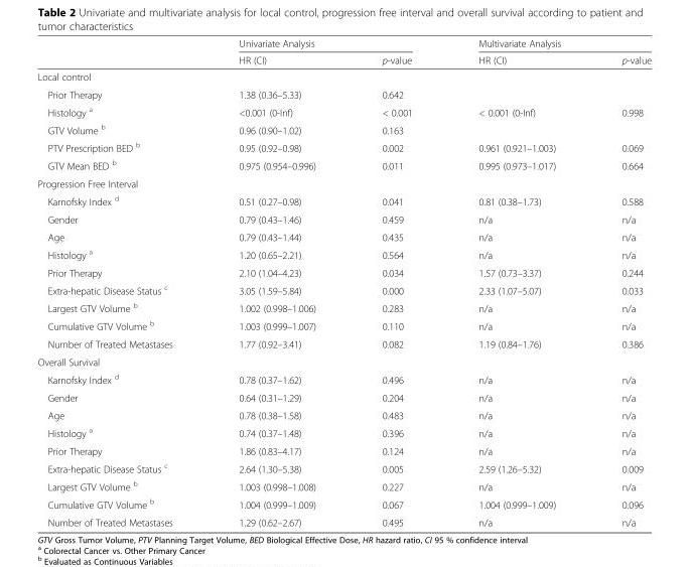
<table><thead><tr><td rowspan="2"></td><td colspan="2">Univariate Analysis</td><td colspan="2">Multivariate Analysis</td></tr><tr><td>HR (CI)</td><td>p-value</td><td>HR (CI)</td><td>p-value</td></tr></thead><tbody><tr><td colspan="5">Local control</td></tr><tr><td>Prior Therapy</td><td>1.38 (0.36–5.33)</td><td>0.642</td><td></td><td></td></tr><tr><td>Histology <sup>a</sup></td><td>&lt;0.001 (0-Inf)</td><td>&lt; 0.001</td><td>&lt; 0.001 (0-Inf)</td><td>0.998</td></tr><tr><td>GTV Volume <sup>b</sup></td><td>0.96 (0.90–1.02)</td><td>0.163</td><td></td><td></td></tr><tr><td>PTV Prescription BED <sup>b</sup></td><td>0.95 (0.92–0.98)</td><td>0.002</td><td>0.961 (0.921–1.003)</td><td>0.069</td></tr><tr><td>GTV Mean BED <sup>b</sup></td><td>0.975 (0.954–0.996)</td><td>0.011</td><td>0.995 (0.973–1.017)</td><td>0.664</td></tr><tr><td colspan="5">Progression Free Interval</td></tr><tr><td>Karnofsky Index <sup>d</sup></td><td>0.51 (0.27–0.98)</td><td>0.041</td><td>0.81 (0.38–1.73)</td><td>0.588</td></tr><tr><td>Gender</td><td>0.79 (0.43–1.46)</td><td>0.459</td><td>n/a</td><td>n/a</td></tr><tr><td>Age</td><td>0.79 (0.43–1.44)</td><td>0.435</td><td>n/a</td><td>n/a</td></tr><tr><td>Histology <sup>a</sup></td><td>1.20 (0.65–2.21)</td><td>0.564</td><td>n/a</td><td>n/a</td></tr><tr><td>Prior Therapy</td><td>2.10 (1.04–4.23)</td><td>0.034</td><td>1.57 (0.73–3.37)</td><td>0.244</td></tr><tr><td>Extra-hepatic Disease Status <sup>c</sup></td><td>3.05 (1.59–5.84)</td><td>0.000</td><td>2.33 (1.07–5.07)</td><td>0.033</td></tr><tr><td>Largest GTV Volume <sup>b</sup></td><td>1.002 (0.998–1.006)</td><td>0.283</td><td>n/a</td><td>n/a</td></tr><tr><td>Cumulative GTV Volume <sup>b</sup></td><td>1.003 (0.999–1.007)</td><td>0.110</td><td>n/a</td><td>n/a</td></tr><tr><td>Number of Treated Metastases</td><td>1.77 (0.92–3.41)</td><td>0.082</td><td>1.19 (0.84–1.76)</td><td>0.386</td></tr><tr><td colspan="5">Overall Survival</td></tr><tr><td>Karnofsky Index <sup>d</sup></td><td>0.78 (0.37–1.62)</td><td>0.496</td><td>n/a</td><td>n/a</td></tr><tr><td>Gender</td><td>0.64 (0.31–1.29)</td><td>0.204</td><td>n/a</td><td>n/a</td></tr><tr><td>Age</td><td>0.78 (0.38–1.58)</td><td>0.483</td><td>n/a</td><td>n/a</td></tr><tr><td>Histology <sup>a</sup></td><td>0.74 (0.37–1.48)</td><td>0.396</td><td>n/a</td><td>n/a</td></tr><tr><td>Prior Therapy</td><td>1.86 (0.83–4.17)</td><td>0.124</td><td>n/a</td><td>n/a</td></tr><tr><td>Extra-hepatic Disease Status <sup>c</sup></td><td>2.64 (1.30–5.38)</td><td>0.005</td><td>2.59 (1.26–5.32)</td><td>0.009</td></tr><tr><td>Largest GTV Volume <sup>b</sup></td><td>1.003 (0.998–1.008)</td><td>0.227</td><td>n/a</td><td>n/a</td></tr><tr><td>Cumulative GTV Volume <sup>b</sup></td><td>1.004 (0.999–1.009)</td><td>0.067</td><td>1.004 (0.999–1.009)</td><td>0.096</td></tr><tr><td>Number of Treated Metastases</td><td>1.29 (0.62–2.67)</td><td>0.495</td><td>n/a</td><td>n/a</td></tr></tbody></table>